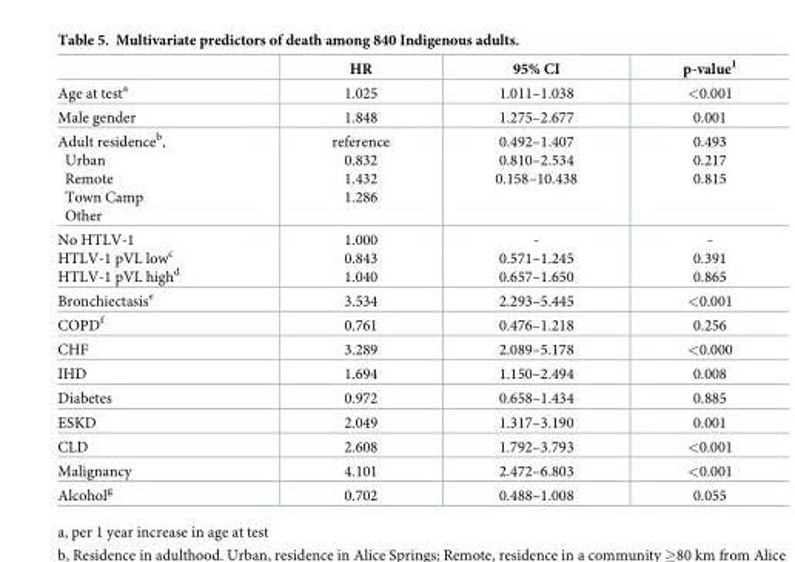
<table><thead><tr><td></td><td>HR</td><td>95% CI</td><td>p-value<sup>1</sup></td></tr></thead><tbody><tr><td>Age at test<sup>a</sup></td><td>1.025</td><td>1.011–1.038</td><td>&lt;0.001</td></tr><tr><td>Male gender</td><td>1.848</td><td>1.275–2.677</td><td>0.001</td></tr><tr><td>Adult residence<sup>b</sup>, Urban Remote Town Camp Other</td><td>reference 0.832 1.432 1.286</td><td>0.492–1.407 0.810–2.534 0.158–10.438</td><td>0.493 0.217 0.815</td></tr><tr><td>No HTLV-1 HTLV-1 pVL low<sup>c</sup> HTLV-1 pVL high<sup>d</sup></td><td>1.000 0.843 1.040</td><td>- 0.571–1.245 0.657–1.650</td><td>- 0.391 0.865</td></tr><tr><td>Bronchiectasis<sup>e</sup></td><td>3.534</td><td>2.293–5.445</td><td>&lt;0.001</td></tr><tr><td>COPD<sup>f</sup></td><td>0.761</td><td>0.476–1.218</td><td>0.256</td></tr><tr><td>CHF</td><td>3.289</td><td>2.089–5.178</td><td>&lt;0.000</td></tr><tr><td>IHD</td><td>1.694</td><td>1.150–2.494</td><td>0.008</td></tr><tr><td>Diabetes</td><td>0.972</td><td>0.658–1.434</td><td>0.885</td></tr><tr><td>ESKD</td><td>2.049</td><td>1.317–3.190</td><td>0.001</td></tr><tr><td>CLD</td><td>2.608</td><td>1.792–3.793</td><td>&lt;0.001</td></tr><tr><td>Malignancy</td><td>4.101</td><td>2.472–6.803</td><td>&lt;0.001</td></tr><tr><td>Alcohol<sup>g</sup></td><td>0.702</td><td>0.488–1.008</td><td>0.055</td></tr></tbody></table>